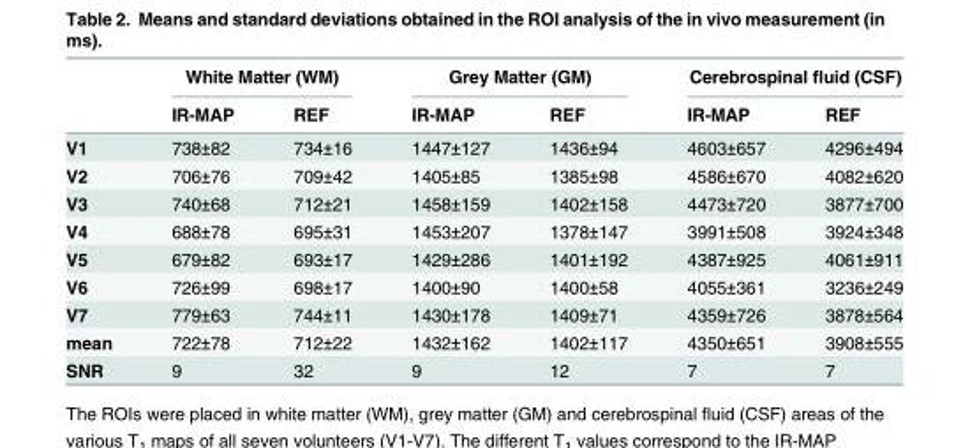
<table><thead><tr><td rowspan="2"></td><td colspan="2">White Matter (WM)</td><td colspan="2">Grey Matter (GM)</td><td colspan="2">Cerebrospinal fluid (CSF)</td></tr><tr><td>IR-MAP</td><td>REF</td><td>IR-MAP</td><td>REF</td><td>IR-MAP</td><td>REF</td></tr></thead><tbody><tr><td>V1</td><td>738±82</td><td>734±16</td><td>1447±127</td><td>1436±94</td><td>4603±657</td><td>4296±494</td></tr><tr><td>V2</td><td>706±76</td><td>709±42</td><td>1405±85</td><td>1385±98</td><td>4586±670</td><td>4082±620</td></tr><tr><td>V3</td><td>740±68</td><td>712±21</td><td>1458±159</td><td>1402±158</td><td>4473±720</td><td>3877±700</td></tr><tr><td>V4</td><td>688±78</td><td>695±31</td><td>1453±207</td><td>1378±147</td><td>3991±508</td><td>3924±348</td></tr><tr><td>V5</td><td>679±82</td><td>693±17</td><td>1429±286</td><td>1401±192</td><td>4387±925</td><td>4061±911</td></tr><tr><td>V6</td><td>726±99</td><td>698±17</td><td>1400±90</td><td>1400±58</td><td>4055±361</td><td>3236±249</td></tr><tr><td>V7</td><td>779±63</td><td>744±11</td><td>1430±178</td><td>1409±71</td><td>4359±726</td><td>3878±564</td></tr><tr><td>mean</td><td>722±78</td><td>712±22</td><td>1432±162</td><td>1402±117</td><td>4350±651</td><td>3908±555</td></tr><tr><td>SNR</td><td>9</td><td>32</td><td>9</td><td>12</td><td>7</td><td>7</td></tr></tbody></table>